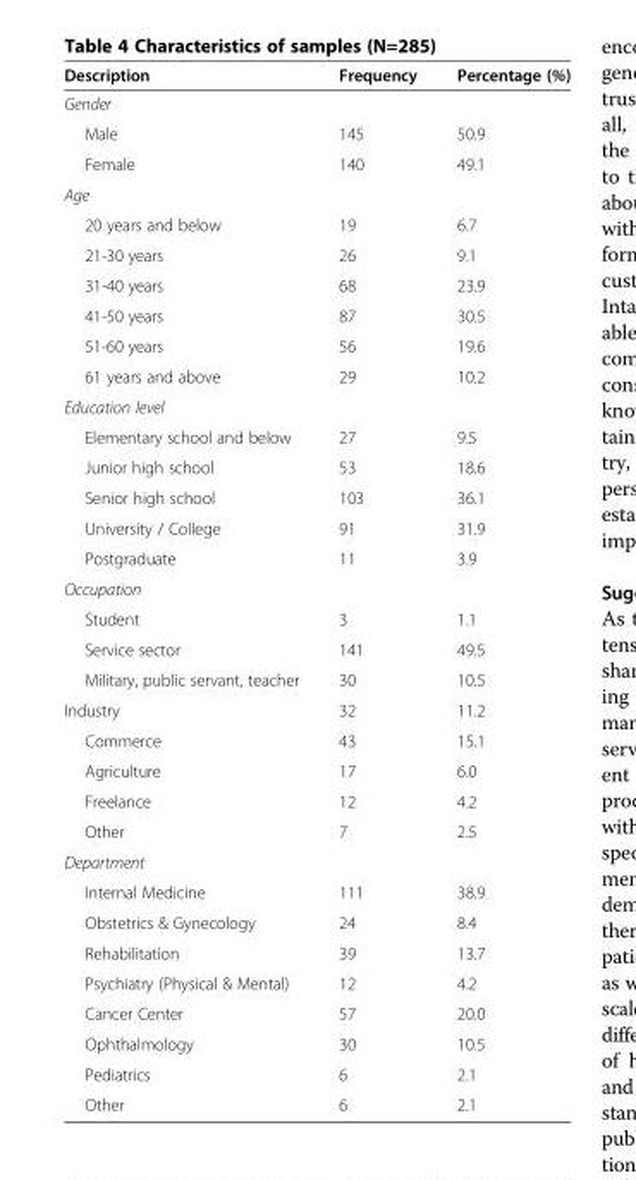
<table><thead><tr><td>Description</td><td>Frequency</td><td>Percentage (%)</td></tr></thead><tbody><tr><td colspan="3">Gender</td></tr><tr><td>Male</td><td>145</td><td>50.9</td></tr><tr><td>Female</td><td>140</td><td>49.1</td></tr><tr><td colspan="3">Age</td></tr><tr><td>20 years and below</td><td>19</td><td>6.7</td></tr><tr><td>21-30 years</td><td>26</td><td>9.1</td></tr><tr><td>31-40 years</td><td>68</td><td>23.9</td></tr><tr><td>41-50 years</td><td>87</td><td>30.5</td></tr><tr><td>51-60 years</td><td>56</td><td>19.6</td></tr><tr><td>61 years and above</td><td>29</td><td>10.2</td></tr><tr><td colspan="3">Education level</td></tr><tr><td>Elementary school and below</td><td>27</td><td>9.5</td></tr><tr><td>Junior high school</td><td>53</td><td>18.6</td></tr><tr><td>Senior high school</td><td>103</td><td>36.1</td></tr><tr><td>University / College</td><td>91</td><td>31.9</td></tr><tr><td>Postgraduate</td><td>11</td><td>3.9</td></tr><tr><td colspan="3">Occupation</td></tr><tr><td>Student</td><td>3</td><td>1.1</td></tr><tr><td>Service sector</td><td>141</td><td>49.5</td></tr><tr><td>Military, public servant, teacher</td><td>30</td><td>10.5</td></tr><tr><td>Industry</td><td>32</td><td>11.2</td></tr><tr><td>Commerce</td><td>43</td><td>15.1</td></tr><tr><td>Agriculture</td><td>17</td><td>6.0</td></tr><tr><td>Freelance</td><td>12</td><td>4.2</td></tr><tr><td>Other</td><td>7</td><td>2.5</td></tr><tr><td colspan="3">Department</td></tr><tr><td>Internal Medicine</td><td>111</td><td>38.9</td></tr><tr><td>Obstetrics &amp; Gynecology</td><td>24</td><td>8.4</td></tr><tr><td>Rehabilitation</td><td>39</td><td>13.7</td></tr><tr><td>Psychiatry (Physical &amp; Mental)</td><td>12</td><td>4.2</td></tr><tr><td>Cancer Center</td><td>57</td><td>20.0</td></tr><tr><td>Ophthalmology</td><td>30</td><td>10.5</td></tr><tr><td>Pediatrics</td><td>6</td><td>2.1</td></tr><tr><td>Other</td><td>6</td><td>2.1</td></tr></tbody></table>